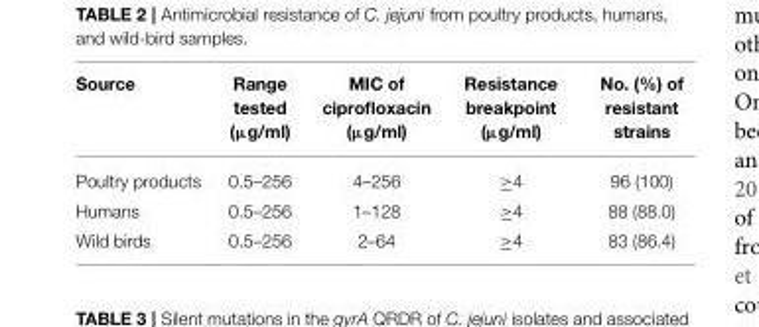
<table><thead><tr><td>Source</td><td>Range tested (µg/ml)</td><td>MIC of ciprofloxacin (µg/ml)</td><td>Resistance breakpoint (µg/ml)</td><td>No. (%) of resistant strains</td></tr></thead><tbody><tr><td>Poultry products</td><td>0.5–256</td><td>4–256</td><td>≥4</td><td>96 (100)</td></tr><tr><td>Humans</td><td>0.5–256</td><td>1–128</td><td>≥4</td><td>88 (88.0)</td></tr><tr><td>Wild birds</td><td>0.5–256</td><td>2–64</td><td>≥4</td><td>83 (86.4)</td></tr></tbody></table>